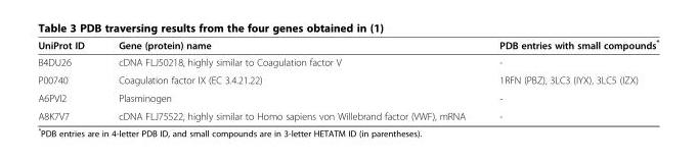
<table><thead><tr><td>UniProt ID</td><td>Gene (protein) name</td><td>PDB entries with small compounds*</td></tr></thead><tbody><tr><td>B4DU26</td><td>cDNA FLJ50218, highly similar to Coagulation factor V</td><td>-</td></tr><tr><td>P00740</td><td>Coagulation factor IX (EC 3.4.21.22)</td><td>1RFN (PBZ), 3LC3 (IYX), 3LC5 (IZX)</td></tr><tr><td>A6PVI2</td><td>Plasminogen</td><td>-</td></tr><tr><td>A8K7V7</td><td>cDNA FLJ75522, highly similar to Homo sapiens von Willebrand factor (VWF), mRNA</td><td>-</td></tr></tbody></table>